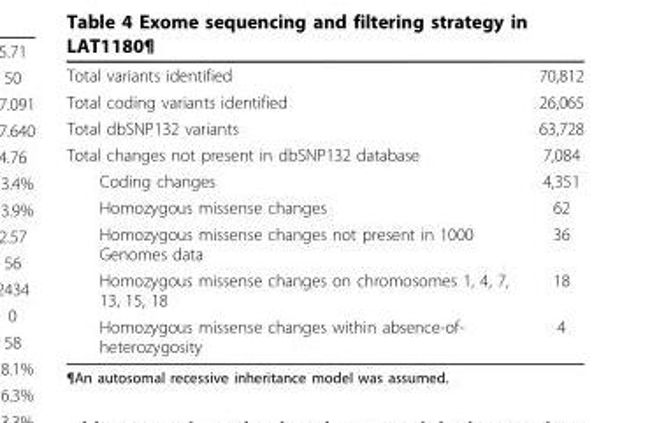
<table><tbody><tr><td>Total variants identified</td><td>70,812</td></tr><tr><td>Total coding variants identified</td><td>26,065</td></tr><tr><td>Total dbSNP132 variants</td><td>63,728</td></tr><tr><td>Total changes not present in dbSNP132 database</td><td>7,084</td></tr><tr><td>Coding changes</td><td>4,351</td></tr><tr><td>Homozygous missense changes</td><td>62</td></tr><tr><td>Homozygous missense changes not present in 1000 Genomes data</td><td>36</td></tr><tr><td>Homozygous missense changes on chromosomes 1, 4, 7, 13, 15, 18</td><td>18</td></tr><tr><td>Homozygous missense changes within absence-of- heterozygosity</td><td>4</td></tr></tbody></table>